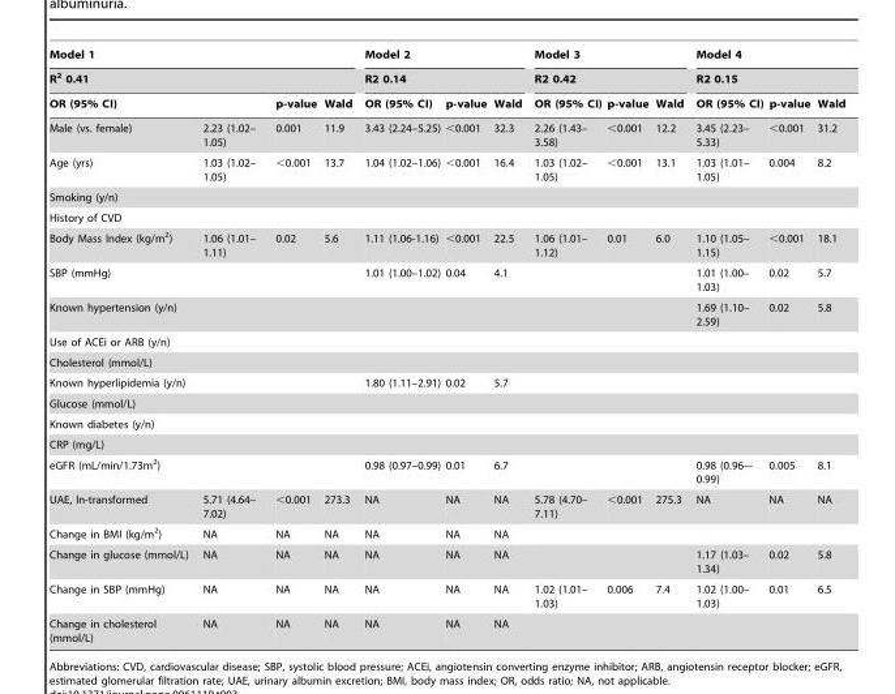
<table><thead><tr><td rowspan="2" colspan="4">Model 1 R<sup>2</sup> 0.41</td><td rowspan="2" colspan="3">Model 2 R2 0.14</td><td rowspan="2" colspan="3">Model 3 R2 0.42</td><td rowspan="2" colspan="3">Model 4 R2 0.15</td></tr><tr></tr><tr><td colspan="2">OR (95% CI)</td><td rowspan="2">p-value 0.001</td><td rowspan="2">Wald 11.9</td><td rowspan="2">OR (95% CI) 3.43 (2.24–5.25)</td><td rowspan="2">p-value &lt;0.001</td><td rowspan="2">Wald 32.3</td><td rowspan="2">OR (95% CI) 2.26 (1.43– 3.58)</td><td rowspan="2">p-value &lt;0.001</td><td rowspan="2">Wald 12.2</td><td rowspan="2">OR (95% CI) 3.45 (2.23– 5.33)</td><td rowspan="2">p-value &lt;0.001</td><td rowspan="2">Wald 31.2</td></tr><tr><td>Male (vs. female)</td><td>2.23 (1.02– 1.05)</td></tr></thead><tbody><tr><td>Age (yrs)</td><td>1.03 (1.02– 1.05)</td><td>&lt;0.001</td><td>13.7</td><td>1.04 (1.02–1.06)</td><td>&lt;0.001</td><td>16.4</td><td>1.03 (1.02– 1.05)</td><td>&lt;0.001</td><td>13.1</td><td>1.03 (1.01– 1.05)</td><td>0.004</td><td>8.2</td></tr><tr><td colspan="13">Smoking (y/n)</td></tr><tr><td colspan="13">History of CVD</td></tr><tr><td>Body Mass Index (kg/m<sup>2</sup>)</td><td>1.06 (1.01– 1.11)</td><td>0.02</td><td>5.6</td><td>1.11 (1.06-1.16)</td><td>&lt;0.001</td><td>22.5</td><td>1.06 (1.01– 1.12)</td><td>0.01</td><td>6.0</td><td>1.10 (1.05– 1.15)</td><td>&lt;0.001</td><td>18.1</td></tr><tr><td colspan="4">SBP (mmHg)</td><td>1.01 (1.00–1.02)</td><td>0.04</td><td>4.1</td><td colspan="3"></td><td>1.01 (1.00– 1.03)</td><td>0.02</td><td>5.7</td></tr><tr><td colspan="10">Known hypertension (y/n)</td><td>1.69 (1.10– 2.59)</td><td>0.02</td><td>5.8</td></tr><tr><td colspan="13">Use of ACEi or ARB (y/n)</td></tr><tr><td colspan="13">Cholesterol (mmol/L)</td></tr><tr><td colspan="4">Known hyperlipidemia (y/n)</td><td>1.80 (1.11–2.91)</td><td>0.02</td><td>5.7</td><td colspan="6"></td></tr><tr><td colspan="13">Glucose (mmol/L)</td></tr><tr><td colspan="13">Known diabetes (y/n)</td></tr><tr><td colspan="13">CRP (mg/L)</td></tr><tr><td colspan="4">eGFR (mL/min/1.73m<sup>2</sup>)</td><td>0.98 (0.97–0.99)</td><td>0.01</td><td>6.7</td><td colspan="3"></td><td>0.98 (0.96–- 0.99)</td><td>0.005</td><td>8.1</td></tr><tr><td>UAE, ln-transformed</td><td>5.71 (4.64– 7.02)</td><td>&lt;0.001</td><td>273.3</td><td>NA</td><td>NA</td><td>NA</td><td>5.78 (4.70– 7.11)</td><td>&lt;0.001</td><td>275.3</td><td>NA</td><td>NA</td><td>NA</td></tr><tr><td>Change in BMI (kg/m<sup>2</sup>)</td><td>NA</td><td>NA</td><td>NA</td><td>NA</td><td>NA</td><td>NA</td><td colspan="6"></td></tr><tr><td>Change in glucose (mmol/L)</td><td>NA</td><td>NA</td><td>NA</td><td>NA</td><td>NA</td><td>NA</td><td colspan="3"></td><td>1.17 (1.03– 1.34)</td><td>0.02</td><td>5.8</td></tr><tr><td>Change in SBP (mmHg)</td><td>NA</td><td>NA</td><td>NA</td><td>NA</td><td>NA</td><td>NA</td><td>1.02 (1.01– 1.03)</td><td>0.006</td><td>7.4</td><td>1.02 (1.00– 1.03)</td><td>0.01</td><td>6.5</td></tr><tr><td>Change in cholesterol (mmol/L)</td><td>NA</td><td>NA</td><td>NA</td><td>NA</td><td>NA</td><td>NA</td><td colspan="6"></td></tr></tbody></table>